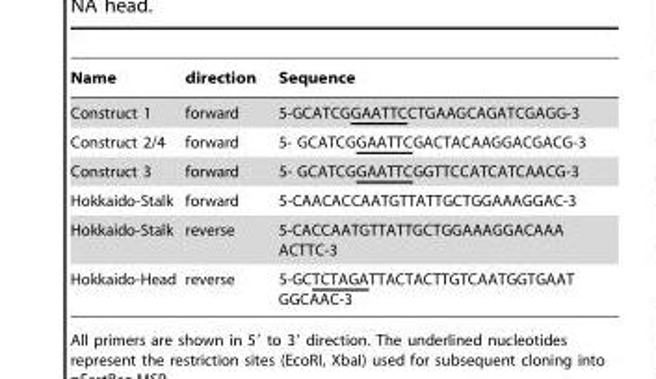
<table><thead><tr><td>Name</td><td>direction</td><td>Sequence</td></tr></thead><tbody><tr><td>Construct 1</td><td>forward</td><td>5-GCATCGGAATTCCTGAAGCAGATCGAGG-3</td></tr><tr><td>Construct 2/4</td><td>forward</td><td>5- GCATCGGAATTCGACTACAAGGACGACG-3</td></tr><tr><td>Construct 3</td><td>forward</td><td>5- GCATCGGAATTCGGTTCCATCATCAACG-3</td></tr><tr><td>Hokkaido-Stalk</td><td>forward</td><td>5-CAACACCAATGTTATTGCTGGAAAGGAC-3</td></tr><tr><td>Hokkaido-Stalk</td><td>reverse</td><td>5-CACCAATGTTATTGCTGGAAAGGACAAA ACTTC-3</td></tr><tr><td>Hokkaido-Head</td><td>reverse</td><td>5-GCTCTAGATTACTACTTGTCAATGGTGAAT GGCAAC-3</td></tr></tbody></table>